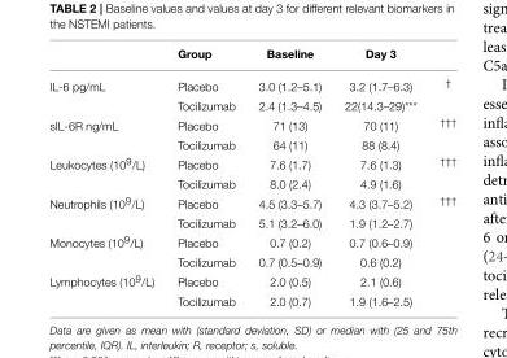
<table><thead><tr><td></td><td>Group</td><td>Baseline</td><td>Day 3</td><td></td></tr></thead><tbody><tr><td rowspan="2">IL-6 pg/mL</td><td>Placebo</td><td>3.0 (1.2–5.1)</td><td>3.2 (1.7–6.3)</td><td><sup>†</sup></td></tr><tr><td>Tocilizumab</td><td>2.4 (1.3–4.5)</td><td>22(14.3–29)***</td><td></td></tr><tr><td rowspan="2">sIL-6R ng/mL</td><td>Placebo</td><td>71 (13)</td><td>70 (11)</td><td><sup>†††</sup></td></tr><tr><td>Tocilizumab</td><td>64 (11)</td><td>88 (8.4)</td><td></td></tr><tr><td rowspan="2">Leukocytes (10<sup>9</sup>/L)</td><td>Placebo</td><td>7.6 (1.7)</td><td>7.6 (1.3)</td><td><sup>†††</sup></td></tr><tr><td>Tocilizumab</td><td>8.0 (2.4)</td><td>4.9 (1.6)</td><td></td></tr><tr><td rowspan="2">Neutrophils (10<sup>9</sup>/L)</td><td>Placebo</td><td>4.5 (3.3–5.7)</td><td>4.3 (3.7–5.2)</td><td><sup>†††</sup></td></tr><tr><td>Tocilizumab</td><td>5.1 (3.2–6.0)</td><td>1.9 (1.2–2.7)</td><td></td></tr><tr><td rowspan="2">Monocytes (10<sup>9</sup>/L)</td><td>Placebo</td><td>0.7 (0.2)</td><td>0.7 (0.6–0.9)</td><td></td></tr><tr><td>Tocilizumab</td><td>0.7 (0.5–0.9)</td><td>0.6 (0.2)</td><td></td></tr><tr><td rowspan="2">Lymphocytes (10<sup>9</sup>/L)</td><td>Placebo</td><td>2.0 (0.5)</td><td>2.1 (0.6)</td><td></td></tr><tr><td>Tocilizumab</td><td>2.0 (0.7)</td><td>1.9 (1.6–2.5)</td><td></td></tr></tbody></table>